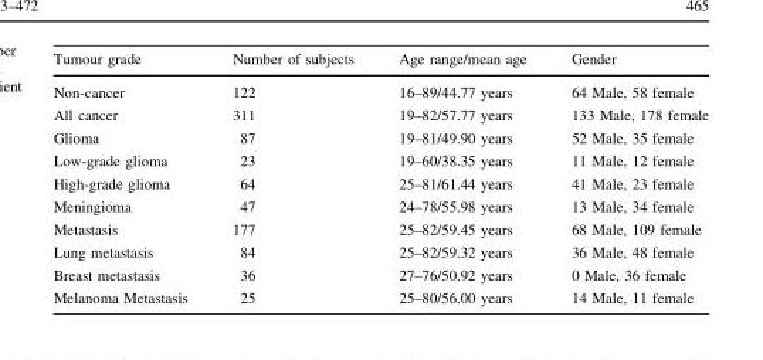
<table><thead><tr><td>Tumour grade</td><td>Number of subjects</td><td>Age range/mean age</td><td>Gender</td></tr></thead><tbody><tr><td>Non-cancer</td><td>122</td><td>16–89/44.77 years</td><td>64 Male, 58 female</td></tr><tr><td>All cancer</td><td>311</td><td>19–82/57.77 years</td><td>133 Male, 178 female</td></tr><tr><td>Glioma</td><td>87</td><td>19–81/49.90 years</td><td>52 Male, 35 female</td></tr><tr><td>Low-grade glioma</td><td>23</td><td>19–60/38.35 years</td><td>11 Male, 12 female</td></tr><tr><td>High-grade glioma</td><td>64</td><td>25–81/61.44 years</td><td>41 Male, 23 female</td></tr><tr><td>Meningioma</td><td>47</td><td>24–78/55.98 years</td><td>13 Male, 34 female</td></tr><tr><td>Metastasis</td><td>177</td><td>25–82/59.45 years</td><td>68 Male, 109 female</td></tr><tr><td>Lung metastasis</td><td>84</td><td>25–82/59.32 years</td><td>36 Male, 48 female</td></tr><tr><td>Breast metastasis</td><td>36</td><td>27–76/50.92 years</td><td>0 Male, 36 female</td></tr><tr><td>Melanoma Metastasis</td><td>25</td><td>25–80/56.00 years</td><td>14 Male, 11 female</td></tr></tbody></table>